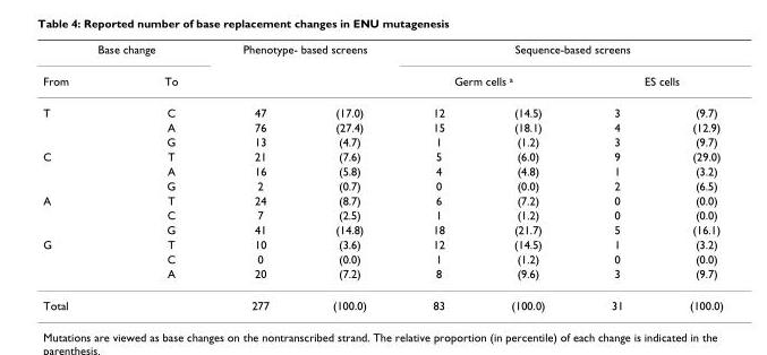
<table><thead><tr><td colspan="2">Base change</td><td colspan="2">Phenotype- based screens</td><td colspan="4">Sequence-based screens</td></tr><tr><td rowspan="2">From T</td><td rowspan="2">To C</td><td rowspan="2">47</td><td rowspan="2">(17.0)</td><td colspan="2">Germ cells <sup>a</sup></td><td colspan="2">ES cells</td></tr><tr><td>12</td><td>(14.5)</td><td>3</td><td>(9.7)</td></tr></thead><tbody><tr><td></td><td>A</td><td>76</td><td>(27.4)</td><td>15</td><td>(18.1)</td><td>4</td><td>(12.9)</td></tr><tr><td></td><td>G</td><td>13</td><td>(4.7)</td><td>1</td><td>(1.2)</td><td>3</td><td>(9.7)</td></tr><tr><td rowspan="3">C</td><td>T</td><td>21</td><td>(7.6)</td><td>5</td><td>(6.0)</td><td>9</td><td>(29.0)</td></tr><tr><td>A</td><td>16</td><td>(5.8)</td><td>4</td><td>(4.8)</td><td>1</td><td>(3.2)</td></tr><tr><td>G</td><td>2</td><td>(0.7)</td><td>0</td><td>(0.0)</td><td>2</td><td>(6.5)</td></tr><tr><td rowspan="3">A</td><td>T</td><td>24</td><td>(8.7)</td><td>6</td><td>(7.2)</td><td>0</td><td>(0.0)</td></tr><tr><td>C</td><td>7</td><td>(2.5)</td><td>1</td><td>(1.2)</td><td>0</td><td>(0.0)</td></tr><tr><td>G</td><td>41</td><td>(14.8)</td><td>18</td><td>(21.7)</td><td>5</td><td>(16.1)</td></tr><tr><td rowspan="3">G</td><td>T</td><td>10</td><td>(3.6)</td><td>12</td><td>(14.5)</td><td>1</td><td>(3.2)</td></tr><tr><td>C</td><td>0</td><td>(0.0)</td><td>1</td><td>(1.2)</td><td>0</td><td>(0.0)</td></tr><tr><td>A</td><td>20</td><td>(7.2)</td><td>8</td><td>(9.6)</td><td>3</td><td>(9.7)</td></tr><tr><td colspan="2">Total</td><td>277</td><td>(100.0)</td><td>83</td><td>(100.0)</td><td>31</td><td>(100.0)</td></tr></tbody></table>